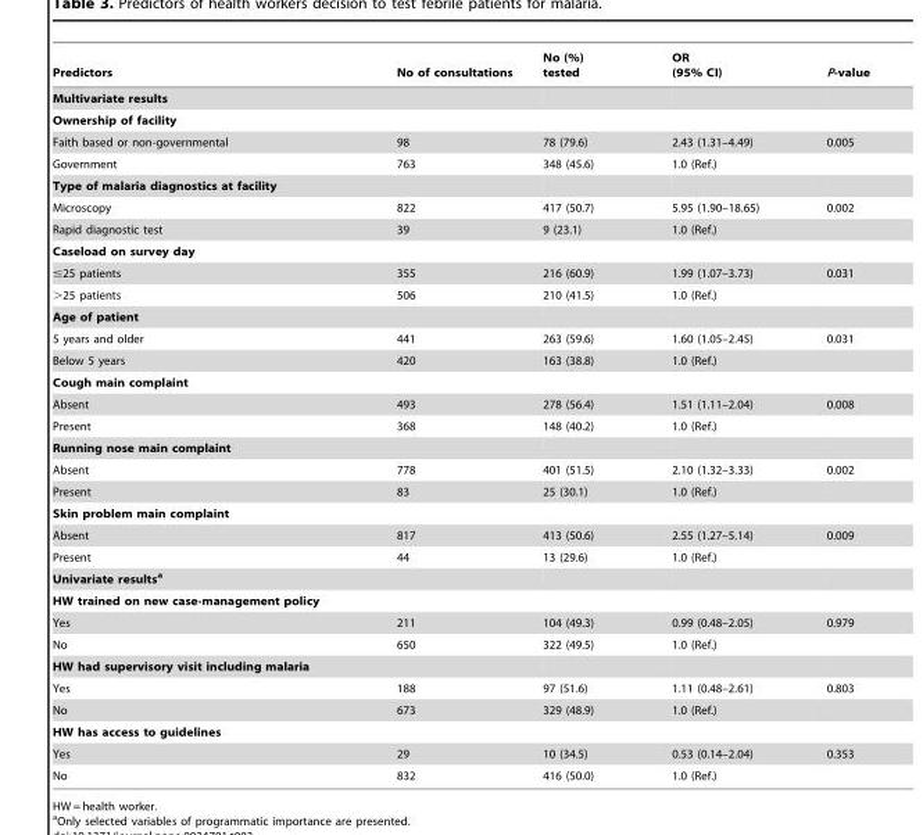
<table><thead><tr><td>Predictors</td><td>No of consultations</td><td>No (%) tested</td><td>OR (95% CI)</td><td>P-value</td></tr></thead><tbody><tr><td colspan="5">Multivariate results</td></tr><tr><td colspan="5">Ownership of facility</td></tr><tr><td>Faith based or non-governmental</td><td>98</td><td>78 (79.6)</td><td>2.43 (1.31–4.49)</td><td>0.005</td></tr><tr><td>Government</td><td>763</td><td>348 (45.6)</td><td>1.0 (Ref.)</td><td></td></tr><tr><td colspan="5">Type of malaria diagnostics at facility</td></tr><tr><td>Microscopy</td><td>822</td><td>417 (50.7)</td><td>5.95 (1.90–18.65)</td><td>0.002</td></tr><tr><td>Rapid diagnostic test</td><td>39</td><td>9 (23.1)</td><td>1.0 (Ref.)</td><td></td></tr><tr><td colspan="5">Caseload on survey day</td></tr><tr><td>≤25 patients</td><td>355</td><td>216 (60.9)</td><td>1.99 (1.07–3.73)</td><td>0.031</td></tr><tr><td>&gt;25 patients</td><td>506</td><td>210 (41.5)</td><td>1.0 (Ref.)</td><td></td></tr><tr><td colspan="5">Age of patient</td></tr><tr><td>5 years and older</td><td>441</td><td>263 (59.6)</td><td>1.60 (1.05–2.45)</td><td>0.031</td></tr><tr><td>Below 5 years</td><td>420</td><td>163 (38.8)</td><td>1.0 (Ref.)</td><td></td></tr><tr><td colspan="5">Cough main complaint</td></tr><tr><td>Absent</td><td>493</td><td>278 (56.4)</td><td>1.51 (1.11–2.04)</td><td>0.008</td></tr><tr><td>Present</td><td>368</td><td>148 (40.2)</td><td>1.0 (Ref.)</td><td></td></tr><tr><td colspan="5">Running nose main complaint</td></tr><tr><td>Absent</td><td>778</td><td>401 (51.5)</td><td>2.10 (1.32–3.33)</td><td>0.002</td></tr><tr><td>Present</td><td>83</td><td>25 (30.1)</td><td>1.0 (Ref.)</td><td></td></tr><tr><td colspan="5">Skin problem main complaint</td></tr><tr><td>Absent</td><td>817</td><td>413 (50.6)</td><td>2.55 (1.27–5.14)</td><td>0.009</td></tr><tr><td>Present</td><td>44</td><td>13 (29.6)</td><td>1.0 (Ref.)</td><td></td></tr><tr><td colspan="5">Univariate resultsa</td></tr><tr><td colspan="5">HW trained on new case-management policy</td></tr><tr><td>Yes</td><td>211</td><td>104 (49.3)</td><td>0.99 (0.48–2.05)</td><td>0.979</td></tr><tr><td>No</td><td>650</td><td>322 (49.5)</td><td>1.0 (Ref.)</td><td></td></tr><tr><td colspan="5">HW had supervisory visit including malaria</td></tr><tr><td>Yes</td><td>188</td><td>97 (51.6)</td><td>1.11 (0.48–2.61)</td><td>0.803</td></tr><tr><td>No</td><td>673</td><td>329 (48.9)</td><td>1.0 (Ref.)</td><td></td></tr><tr><td colspan="5">HW has access to guidelines</td></tr><tr><td>Yes</td><td>29</td><td>10 (34.5)</td><td>0.53 (0.14–2.04)</td><td>0.353</td></tr><tr><td>No</td><td>832</td><td>416 (50.0)</td><td>1.0 (Ref.)</td><td></td></tr></tbody></table>